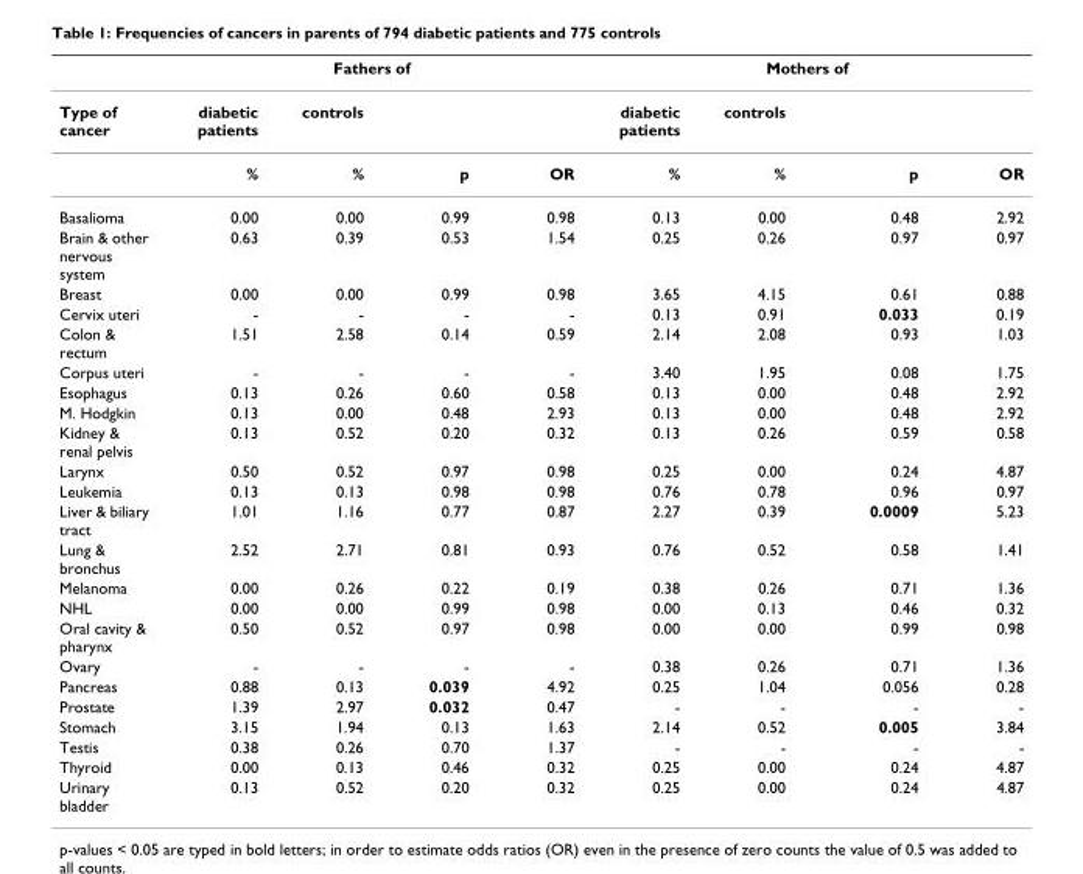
<table><thead><tr><td rowspan="2">Type of cancer</td><td colspan="4">Fathers of</td><td colspan="4">Mothers of</td></tr><tr><td>diabetic patients</td><td>controls</td><td></td><td></td><td>diabetic patients</td><td>controls</td><td></td><td></td></tr></thead><tbody><tr><td></td><td>%</td><td>%</td><td>p</td><td>OR</td><td>%</td><td>%</td><td>p</td><td>OR</td></tr><tr><td>Basalioma</td><td>0.00</td><td>0.00</td><td>0.99</td><td>0.98</td><td>0.13</td><td>0.00</td><td>0.48</td><td>2.92</td></tr><tr><td>Brain &amp; other nervous system</td><td>0.63</td><td>0.39</td><td>0.53</td><td>1.54</td><td>0.25</td><td>0.26</td><td>0.97</td><td>0.97</td></tr><tr><td>Breast</td><td>0.00</td><td>0.00</td><td>0.99</td><td>0.98</td><td>3.65</td><td>4.15</td><td>0.61</td><td>0.88</td></tr><tr><td>Cervix uteri</td><td>-</td><td>-</td><td>-</td><td>-</td><td>0.13</td><td>0.91</td><td>0.033</td><td>0.19</td></tr><tr><td>Colon &amp; rectum</td><td>1.51</td><td>2.58</td><td>0.14</td><td>0.59</td><td>2.14</td><td>2.08</td><td>0.93</td><td>1.03</td></tr><tr><td>Corpus uteri</td><td>-</td><td>-</td><td>-</td><td>-</td><td>3.40</td><td>1.95</td><td>0.08</td><td>1.75</td></tr><tr><td>Esophagus</td><td>0.13</td><td>0.26</td><td>0.60</td><td>0.58</td><td>0.13</td><td>0.00</td><td>0.48</td><td>2.92</td></tr><tr><td>M. Hodgkin</td><td>0.13</td><td>0.00</td><td>0.48</td><td>2.93</td><td>0.13</td><td>0.00</td><td>0.48</td><td>2.92</td></tr><tr><td>Kidney &amp; renal pelvis</td><td>0.13</td><td>0.52</td><td>0.20</td><td>0.32</td><td>0.13</td><td>0.26</td><td>0.59</td><td>0.58</td></tr><tr><td>Larynx</td><td>0.50</td><td>0.52</td><td>0.97</td><td>0.98</td><td>0.25</td><td>0.00</td><td>0.24</td><td>4.87</td></tr><tr><td>Leukemia</td><td>0.13</td><td>0.13</td><td>0.98</td><td>0.98</td><td>0.76</td><td>0.78</td><td>0.96</td><td>0.97</td></tr><tr><td>Liver &amp; biliary tract</td><td>1.01</td><td>1.16</td><td>0.77</td><td>0.87</td><td>2.27</td><td>0.39</td><td>0.0009</td><td>5.23</td></tr><tr><td>Lung &amp; bronchus</td><td>2.52</td><td>2.71</td><td>0.81</td><td>0.93</td><td>0.76</td><td>0.52</td><td>0.58</td><td>1.41</td></tr><tr><td>Melanoma</td><td>0.00</td><td>0.26</td><td>0.22</td><td>0.19</td><td>0.38</td><td>0.26</td><td>0.71</td><td>1.36</td></tr><tr><td>NHL</td><td>0.00</td><td>0.00</td><td>0.99</td><td>0.98</td><td>0.00</td><td>0.13</td><td>0.46</td><td>0.32</td></tr><tr><td>Oral cavity &amp; pharynx</td><td>0.50</td><td>0.52</td><td>0.97</td><td>0.98</td><td>0.00</td><td>0.00</td><td>0.99</td><td>0.98</td></tr><tr><td>Ovary</td><td>-</td><td>-</td><td>-</td><td>-</td><td>0.38</td><td>0.26</td><td>0.71</td><td>1.36</td></tr><tr><td>Pancreas</td><td>0.88</td><td>0.13</td><td>0.039</td><td>4.92</td><td>0.25</td><td>1.04</td><td>0.056</td><td>0.28</td></tr><tr><td>Prostate</td><td>1.39</td><td>2.97</td><td>0.032</td><td>0.47</td><td>-</td><td>-</td><td>-</td><td>-</td></tr><tr><td>Stomach</td><td>3.15</td><td>1.94</td><td>0.13</td><td>1.63</td><td>2.14</td><td>0.52</td><td>0.005</td><td>3.84</td></tr><tr><td>Testis</td><td>0.38</td><td>0.26</td><td>0.70</td><td>1.37</td><td>-</td><td>-</td><td>-</td><td>-</td></tr><tr><td>Thyroid</td><td>0.00</td><td>0.13</td><td>0.46</td><td>0.32</td><td>0.25</td><td>0.00</td><td>0.24</td><td>4.87</td></tr><tr><td>Urinary bladder</td><td>0.13</td><td>0.52</td><td>0.20</td><td>0.32</td><td>0.25</td><td>0.00</td><td>0.24</td><td>4.87</td></tr></tbody></table>